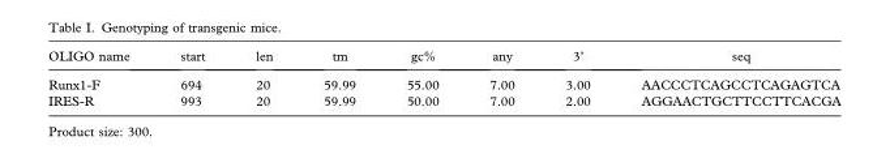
<table><thead><tr><td>OLIGO name</td><td>start</td><td>len</td><td>tm</td><td>gc%</td><td>any</td><td>3’</td><td>seq</td></tr></thead><tbody><tr><td>Runx1-F</td><td>694</td><td>20</td><td>59.99</td><td>55.00</td><td>7.00</td><td>3.00</td><td>AACCCTCAGCCTCAGAGTCA</td></tr><tr><td>IRES-R</td><td>993</td><td>20</td><td>59.99</td><td>50.00</td><td>7.00</td><td>2.00</td><td>AGGAACTGCTTCCTTCACGA</td></tr></tbody></table>